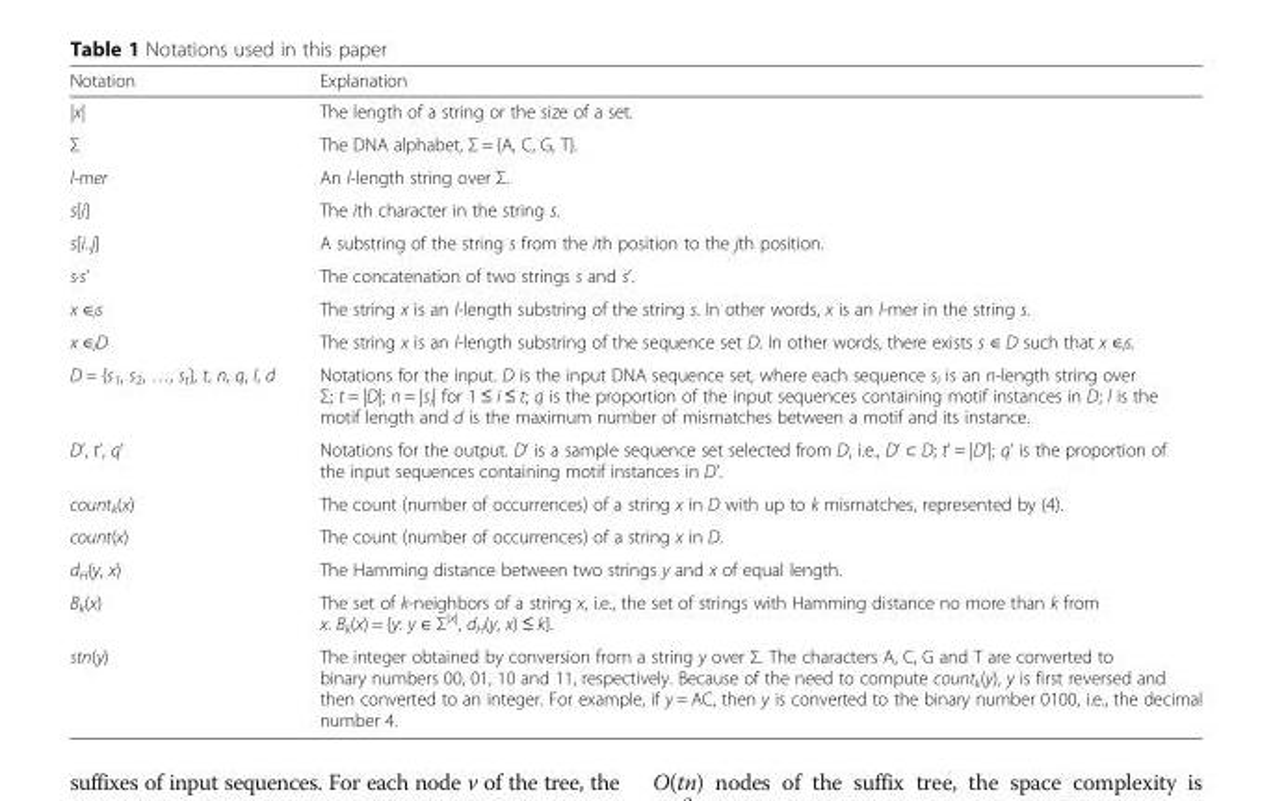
<table><thead><tr><td>Notation</td><td>Explanation</td></tr></thead><tbody><tr><td>|x|</td><td>The length of a string or the size of a set.</td></tr><tr><td>Σ</td><td>The DNA alphabet, Σ = {A, C, G, T}.</td></tr><tr><td>l-mer</td><td>An l-length string over Σ.</td></tr><tr><td>s[i]</td><td>The ith character in the string s.</td></tr><tr><td>s[i..j]</td><td>A substring of the string s from the ith position to the jth position.</td></tr><tr><td>s∙s’</td><td>The concatenation of two strings s and s’.</td></tr><tr><td>x ∈<sub>l</sub>s</td><td>The string x is an l-length substring of the string s. In other words, x is an l-mer in the string s.</td></tr><tr><td>x ∈<sub>l</sub>D</td><td>The string x is an l-length substring of the sequence set D. In other words, there exists s ∈ D such that x ∈<sub>l</sub>s.</td></tr><tr><td>D = {s<sub>1</sub>, s<sub>2</sub>, …, s<sub>t</sub>}, t, n, q, l, d</td><td>Notations for the input. D is the input DNA sequence set, where each sequence s<sub>i</sub> is an n-length string over Σ; t = |D|; n = |s<sub>i</sub>| for 1 ≤ i ≤ t; q is the proportion of the input sequences containing motif instances in D; l is the motif length and d is the maximum number of mismatches between a motif and its instance.</td></tr><tr><td>D’, t’, q’</td><td>Notations for the output. D’ is a sample sequence set selected from D, i.e., D’ ⊂ D; t’ = |D’|; q’ is the proportion of the input sequences containing motif instances in D’.</td></tr><tr><td>count<sub>k</sub>(x)</td><td>The count (number of occurrences) of a string x in D with up to k mismatches, represented by (4).</td></tr><tr><td>count(x)</td><td>The count (number of occurrences) of a string x in D.</td></tr><tr><td>d<sub>H</sub>(y, x)</td><td>The Hamming distance between two strings y and x of equal length.</td></tr><tr><td>B<sub>k</sub>(x)</td><td>The set of k-neighbors of a string x, i.e., the set of strings with Hamming distance no more than k from x. B<sub>k</sub>(x) = {y: y ∈ Σ<sup>|x|</sup>, d<sub>H</sub>(y, x) ≤ k}.</td></tr><tr><td>stn(y)</td><td>The integer obtained by conversion from a string y over Σ. The characters A, C, G and T are converted to binary numbers 00, 01, 10 and 11, respectively. Because of the need to compute count<sub>k</sub>(y), y is first reversed and then converted to an integer. For example, if y = AC, then y is converted to the binary number 0100, i.e., the decimal number 4.</td></tr></tbody></table>